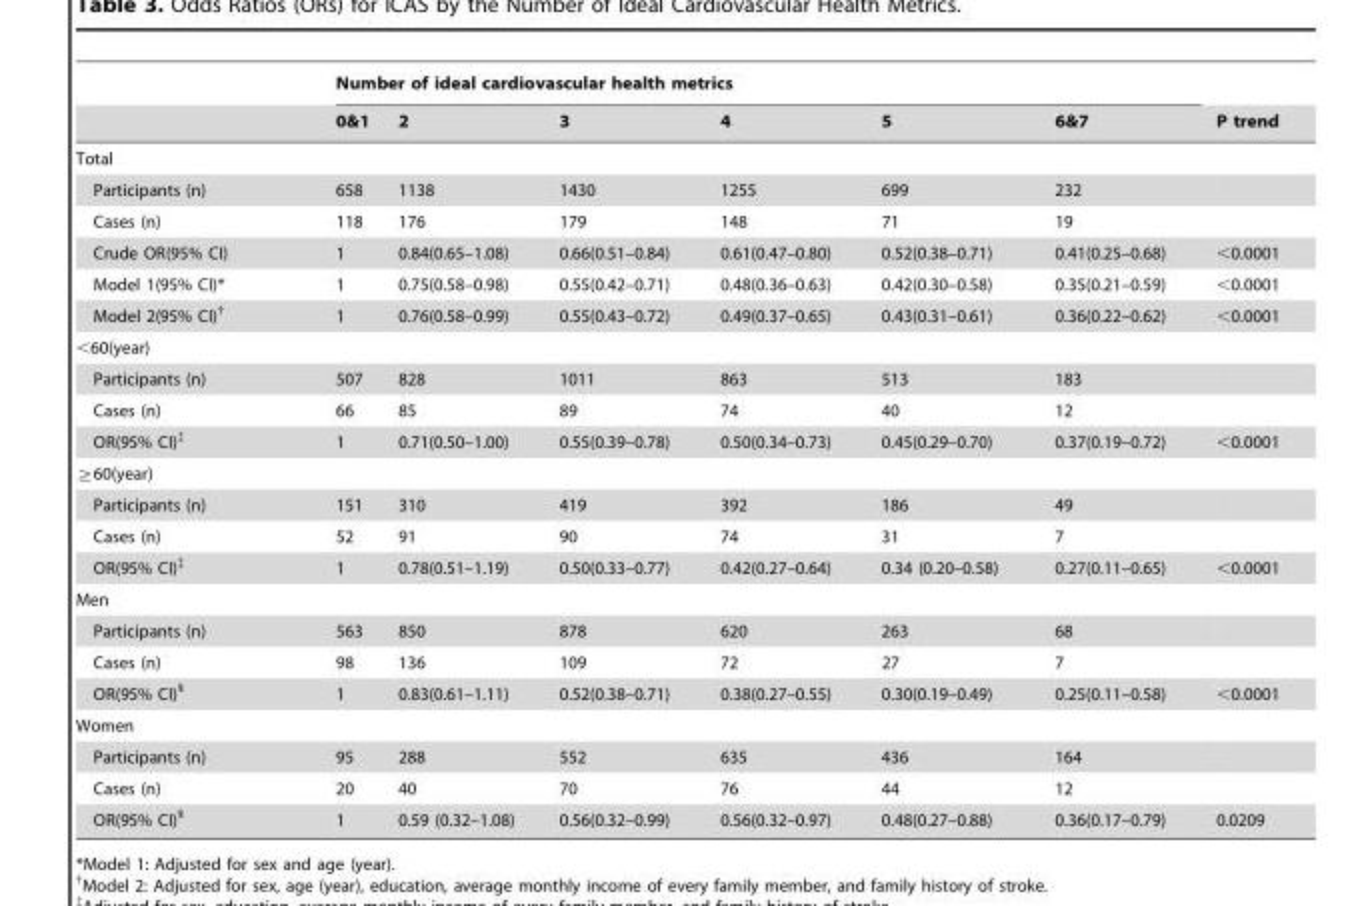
<table><thead><tr><td rowspan="2"></td><td colspan="6">Number of ideal cardiovascular health metrics</td><td rowspan="2">P trend</td></tr><tr><td>0&amp;1</td><td>2</td><td>3</td><td>4</td><td>5</td><td>6&amp;7</td></tr></thead><tbody><tr><td colspan="8">Total</td></tr><tr><td>Participants (n)</td><td>658</td><td>1138</td><td>1430</td><td>1255</td><td>699</td><td>232</td><td></td></tr><tr><td>Cases (n)</td><td>118</td><td>176</td><td>179</td><td>148</td><td>71</td><td>19</td><td></td></tr><tr><td>Crude OR(95% CI)</td><td>1</td><td>0.84(0.65–1.08)</td><td>0.66(0.51–0.84)</td><td>0.61(0.47–0.80)</td><td>0.52(0.38–0.71)</td><td>0.41(0.25–0.68)</td><td>&lt;0.0001</td></tr><tr><td>Model 1(95% CI)*</td><td>1</td><td>0.75(0.58–0.98)</td><td>0.55(0.42–0.71)</td><td>0.48(0.36–0.63)</td><td>0.42(0.30–0.58)</td><td>0.35(0.21–0.59)</td><td>&lt;0.0001</td></tr><tr><td>Model 2(95% CI)†</td><td>1</td><td>0.76(0.58–0.99)</td><td>0.55(0.43–0.72)</td><td>0.49(0.37–0.65)</td><td>0.43(0.31–0.61)</td><td>0.36(0.22–0.62)</td><td>&lt;0.0001</td></tr><tr><td colspan="8">&lt;60(year)</td></tr><tr><td>Participants (n)</td><td>507</td><td>828</td><td>1011</td><td>863</td><td>513</td><td>183</td><td></td></tr><tr><td>Cases (n)</td><td>66</td><td>85</td><td>89</td><td>74</td><td>40</td><td>12</td><td></td></tr><tr><td>OR(95% CI)‡</td><td>1</td><td>0.71(0.50–1.00)</td><td>0.55(0.39–0.78)</td><td>0.50(0.34–0.73)</td><td>0.45(0.29–0.70)</td><td>0.37(0.19–0.72)</td><td>&lt;0.0001</td></tr><tr><td colspan="8">≧60(year)</td></tr><tr><td>Participants (n)</td><td>151</td><td>310</td><td>419</td><td>392</td><td>186</td><td>49</td><td></td></tr><tr><td>Cases (n)</td><td>52</td><td>91</td><td>90</td><td>74</td><td>31</td><td>7</td><td></td></tr><tr><td>OR(95% CI)‡</td><td>1</td><td>0.78(0.51–1.19)</td><td>0.50(0.33–0.77)</td><td>0.42(0.27–0.64)</td><td>0.34 (0.20–0.58)</td><td>0.27(0.11–0.65)</td><td>&lt;0.0001</td></tr><tr><td colspan="8">Men</td></tr><tr><td>Participants (n)</td><td>563</td><td>850</td><td>878</td><td>620</td><td>263</td><td>68</td><td></td></tr><tr><td>Cases (n)</td><td>98</td><td>136</td><td>109</td><td>72</td><td>27</td><td>7</td><td></td></tr><tr><td>OR(95% CI)§</td><td>1</td><td>0.83(0.61–1.11)</td><td>0.52(0.38–0.71)</td><td>0.38(0.27–0.55)</td><td>0.30(0.19–0.49)</td><td>0.25(0.11–0.58)</td><td>&lt;0.0001</td></tr><tr><td colspan="8">Women</td></tr><tr><td>Participants (n)</td><td>95</td><td>288</td><td>552</td><td>635</td><td>436</td><td>164</td><td></td></tr><tr><td>Cases (n)</td><td>20</td><td>40</td><td>70</td><td>76</td><td>44</td><td>12</td><td></td></tr><tr><td>OR(95% CI)§</td><td>1</td><td>0.59 (0.32–1.08)</td><td>0.56(0.32–0.99)</td><td>0.56(0.32–0.97)</td><td>0.48(0.27–0.88)</td><td>0.36(0.17–0.79)</td><td>0.0209</td></tr></tbody></table>